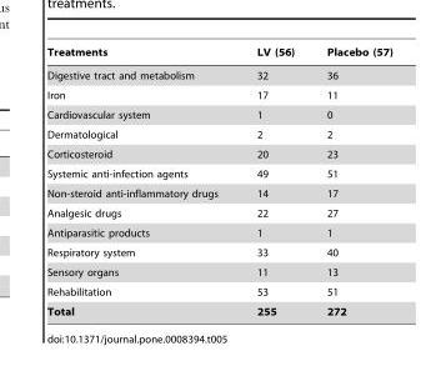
<table><thead><tr><td>Treatments</td><td>LV (56)</td><td>Placebo (57)</td></tr></thead><tbody><tr><td>Digestive tract and metabolism</td><td>32</td><td>36</td></tr><tr><td>Iron</td><td>17</td><td>11</td></tr><tr><td>Cardiovascular system</td><td>1</td><td>0</td></tr><tr><td>Dermatological</td><td>2</td><td>2</td></tr><tr><td>Corticosteroid</td><td>20</td><td>23</td></tr><tr><td>Systemic anti-infection agents</td><td>49</td><td>51</td></tr><tr><td>Non-steroid anti-inflammatory drugs</td><td>14</td><td>17</td></tr><tr><td>Analgesic drugs</td><td>22</td><td>27</td></tr><tr><td>Antiparasitic products</td><td>1</td><td>1</td></tr><tr><td>Respiratory system</td><td>33</td><td>40</td></tr><tr><td>Sensory organs</td><td>11</td><td>13</td></tr><tr><td>Rehabilitation</td><td>53</td><td>51</td></tr><tr><td>Total</td><td>255</td><td>272</td></tr></tbody></table>